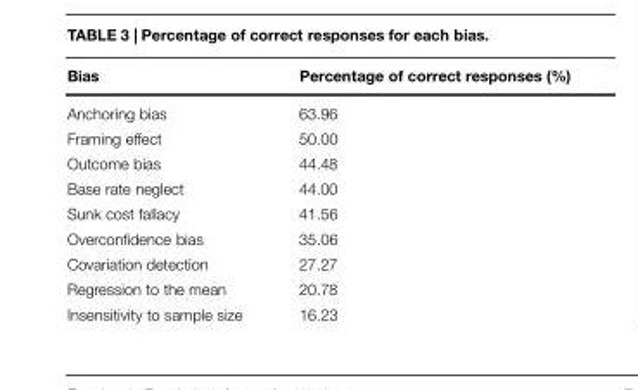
<table><thead><tr><td>Bias</td><td>Percentage of correct responses (%)</td></tr></thead><tbody><tr><td>Anchoring bias</td><td>63.96</td></tr><tr><td>Framing effect</td><td>50.00</td></tr><tr><td>Outcome bias</td><td>44.48</td></tr><tr><td>Base rate neglect</td><td>44.00</td></tr><tr><td>Sunk cost fallacy</td><td>41.56</td></tr><tr><td>Overconfidence bias</td><td>35.06</td></tr><tr><td>Covariation detection</td><td>27.27</td></tr><tr><td>Regression to the mean</td><td>20.78</td></tr><tr><td>Insensitivity to sample size</td><td>16.23</td></tr></tbody></table>